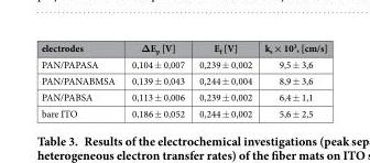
<table><thead><tr><td>electrodes</td><td>ΔE<sub>p</sub> [V]</td><td>E<sub>f</sub> [V]</td><td>k<sub>s</sub> × 10<sup>3</sup>, [cm/s]</td></tr></thead><tbody><tr><td>PAN/PAPASA</td><td>0,104 ± 0,007</td><td>0,239 ± 0,002</td><td>9,5 ± 3,6</td></tr><tr><td>PAN/PANABMSA</td><td>0,139 ± 0,043</td><td>0,244 ± 0,004</td><td>8,9 ± 3,6</td></tr><tr><td>PAN/PABSA</td><td>0,113 ± 0,006</td><td>0,239 ± 0,002</td><td>6,4 ± 1,1</td></tr><tr><td>bare ITO</td><td>0,186 ± 0,052</td><td>0,244 ± 0,002</td><td>5,6 ± 2,5</td></tr></tbody></table>